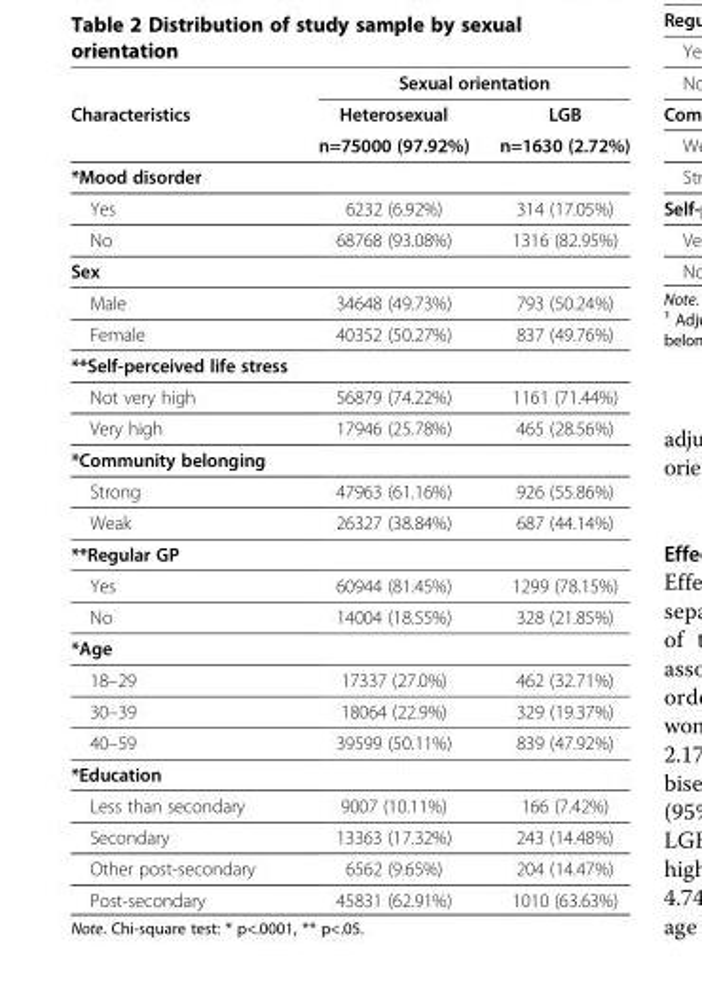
<table><thead><tr><td rowspan="3">Characteristics</td><td colspan="2">Sexual orientation</td></tr><tr><td rowspan="2">Heterosexual n=75000 (97.92%)</td><td rowspan="2">LGB n=1630 (2.72%)</td></tr><tr></tr></thead><tbody><tr><td colspan="3">*Mood disorder</td></tr><tr><td>Yes</td><td>6232 (6.92%)</td><td>314 (17.05%)</td></tr><tr><td>No</td><td>68768 (93.08%)</td><td>1316 (82.95%)</td></tr><tr><td colspan="3">Sex</td></tr><tr><td>Male</td><td>34648 (49.73%)</td><td>793 (50.24%)</td></tr><tr><td>Female</td><td>40352 (50.27%)</td><td>837 (49.76%)</td></tr><tr><td colspan="3">**Self-perceived life stress</td></tr><tr><td>Not very high</td><td>56879 (74.22%)</td><td>1161 (71.44%)</td></tr><tr><td>Very high</td><td>17946 (25.78%)</td><td>465 (28.56%)</td></tr><tr><td colspan="3">*Community belonging</td></tr><tr><td>Strong</td><td>47963 (61.16%)</td><td>926 (55.86%)</td></tr><tr><td>Weak</td><td>26327 (38.84%)</td><td>687 (44.14%)</td></tr><tr><td colspan="3">**Regular GP</td></tr><tr><td>Yes</td><td>60944 (81.45%)</td><td>1299 (78.15%)</td></tr><tr><td>No</td><td>14004 (18.55%)</td><td>328 (21.85%)</td></tr><tr><td colspan="3">*Age</td></tr><tr><td>18–29</td><td>17337 (27.0%)</td><td>462 (32.71%)</td></tr><tr><td>30–39</td><td>18064 (22.9%)</td><td>329 (19.37%)</td></tr><tr><td>40–59</td><td>39599 (50.11%)</td><td>839 (47.92%)</td></tr><tr><td colspan="3">*Education</td></tr><tr><td>Less than secondary</td><td>9007 (10.11%)</td><td>166 (7.42%)</td></tr><tr><td>Secondary</td><td>13363 (17.32%)</td><td>243 (14.48%)</td></tr><tr><td>Other post-secondary</td><td>6562 (9.65%)</td><td>204 (14.47%)</td></tr><tr><td>Post-secondary</td><td>45831 (62.91%)</td><td>1010 (63.63%)</td></tr></tbody></table>